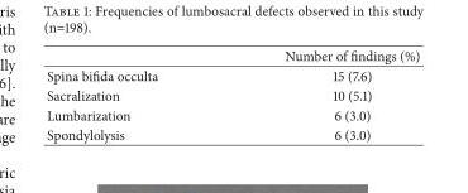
<table><thead><tr><td></td><td>Number of findings (%)</td></tr></thead><tbody><tr><td>Spina bifida occulta</td><td>15 (7.6)</td></tr><tr><td>Sacralization</td><td>10 (5.1)</td></tr><tr><td>Lumbarization</td><td>6 (3.0)</td></tr><tr><td>Spondylolysis</td><td>6 (3.0)</td></tr></tbody></table>